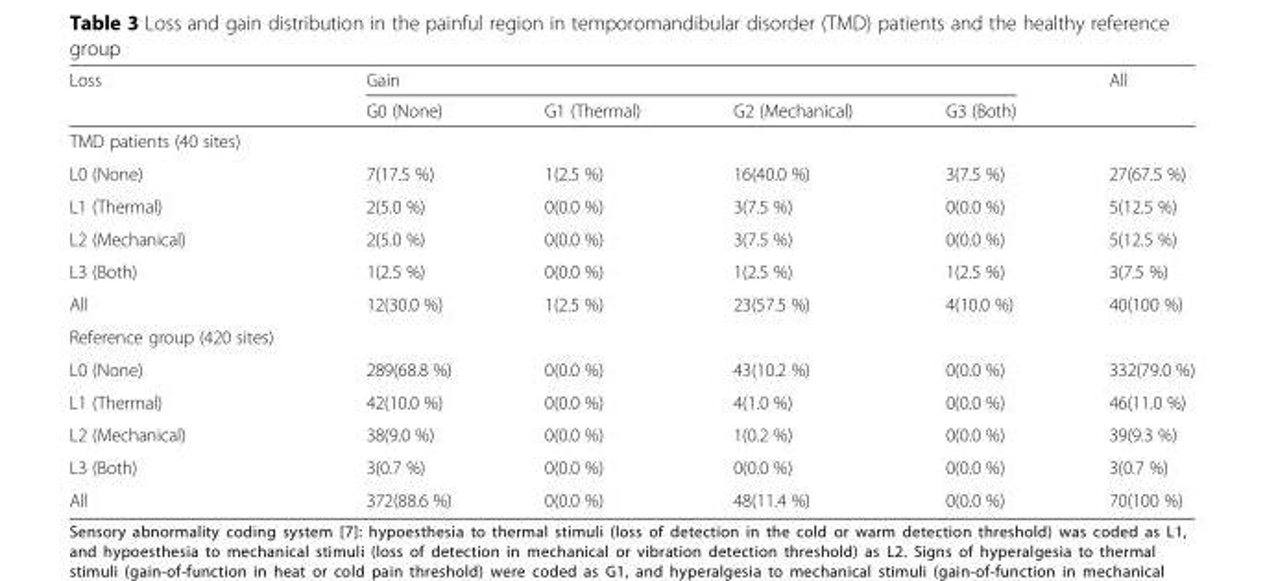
<table><thead><tr><td rowspan="2">Loss</td><td colspan="4">Gain</td><td rowspan="2">All</td></tr><tr><td>G0 (None)</td><td>G1 (Thermal)</td><td>G2 (Mechanical)</td><td>G3 (Both)</td></tr></thead><tbody><tr><td colspan="6">TMD patients (40 sites)</td></tr><tr><td>L0 (None)</td><td>7(17.5 %)</td><td>1(2.5 %)</td><td>16(40.0 %)</td><td>3(7.5 %)</td><td>27(67.5 %)</td></tr><tr><td>L1 (Thermal)</td><td>2(5.0 %)</td><td>0(0.0 %)</td><td>3(7.5 %)</td><td>0(0.0 %)</td><td>5(12.5 %)</td></tr><tr><td>L2 (Mechanical)</td><td>2(5.0 %)</td><td>0(0.0 %)</td><td>3(7.5 %)</td><td>0(0.0 %)</td><td>5(12.5 %)</td></tr><tr><td>L3 (Both)</td><td>1(2.5 %)</td><td>0(0.0 %)</td><td>1(2.5 %)</td><td>1(2.5 %)</td><td>3(7.5 %)</td></tr><tr><td>All</td><td>12(30.0 %)</td><td>1(2.5 %)</td><td>23(57.5 %)</td><td>4(10.0 %)</td><td>40(100 %)</td></tr><tr><td colspan="6">Reference group (420 sites)</td></tr><tr><td>L0 (None)</td><td>289(68.8 %)</td><td>0(0.0 %)</td><td>43(10.2 %)</td><td>0(0.0 %)</td><td>332(79.0 %)</td></tr><tr><td>L1 (Thermal)</td><td>42(10.0 %)</td><td>0(0.0 %)</td><td>4(1.0 %)</td><td>0(0.0 %)</td><td>46(11.0 %)</td></tr><tr><td>L2 (Mechanical)</td><td>38(9.0 %)</td><td>0(0.0 %)</td><td>1(0.2 %)</td><td>0(0.0 %)</td><td>39(9.3 %)</td></tr><tr><td>L3 (Both)</td><td>3(0.7 %)</td><td>0(0.0 %)</td><td>0(0.0 %)</td><td>0(0.0 %)</td><td>3(0.7 %)</td></tr><tr><td>All</td><td>372(88.6 %)</td><td>0(0.0 %)</td><td>48(11.4 %)</td><td>0(0.0 %)</td><td>70(100 %)</td></tr></tbody></table>